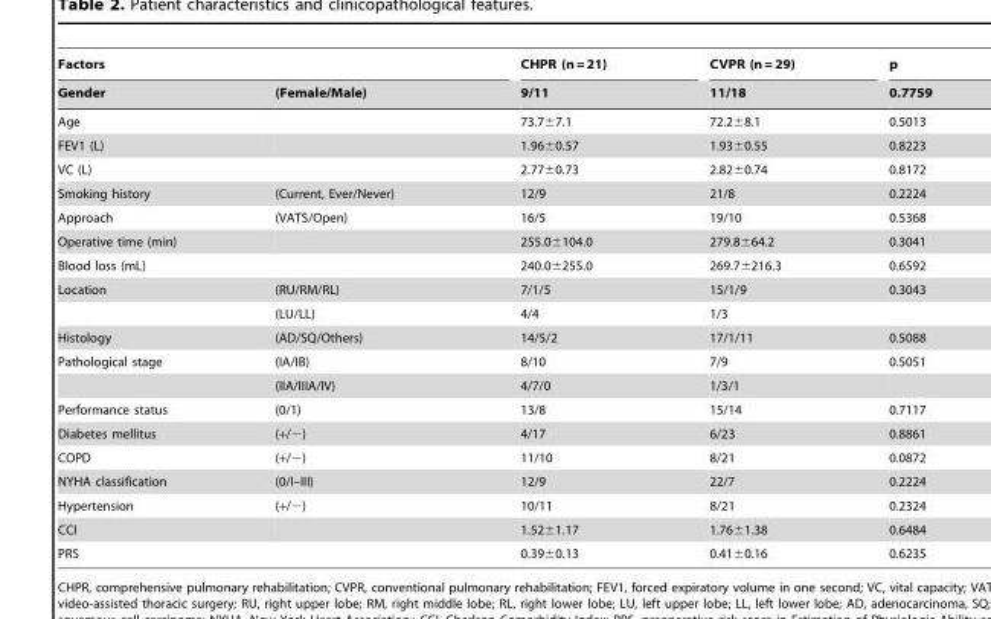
<table><thead><tr><td colspan="2">Factors</td><td rowspan="2">CHPR (n = 21) 9/11</td><td rowspan="2">CVPR (n = 29) 11/18</td><td rowspan="2">p 0.7759</td></tr><tr><td>Gender</td><td>(Female/Male)</td></tr></thead><tbody><tr><td>Age</td><td></td><td>73.7±7.1</td><td>72.2±8.1</td><td>0.5013</td></tr><tr><td>FEV1 (L)</td><td></td><td>1.96±0.57</td><td>1.93±0.55</td><td>0.8223</td></tr><tr><td>VC (L)</td><td></td><td>2.77±0.73</td><td>2.82±0.74</td><td>0.8172</td></tr><tr><td>Smoking history</td><td>(Current, Ever/Never)</td><td>12/9</td><td>21/8</td><td>0.2224</td></tr><tr><td>Approach</td><td>(VATS/Open)</td><td>16/5</td><td>19/10</td><td>0.5368</td></tr><tr><td>Operative time (min)</td><td></td><td>255.0±104.0</td><td>279.8±64.2</td><td>0.3041</td></tr><tr><td>Blood loss (mL)</td><td></td><td>240.0±255.0</td><td>269.7±216.3</td><td>0.6592</td></tr><tr><td rowspan="2">Location</td><td>(RU/RM/RL)</td><td>7/1/5</td><td>15/1/9</td><td>0.3043</td></tr><tr><td>(LU/LL)</td><td>4/4</td><td>1/3</td><td></td></tr><tr><td>Histology</td><td>(AD/SQ/Others)</td><td>14/5/2</td><td>17/1/11</td><td>0.5088</td></tr><tr><td rowspan="2">Pathological stage</td><td>(IA/IB)</td><td>8/10</td><td>7/9</td><td>0.5051</td></tr><tr><td>(IIA/IIIA/IV)</td><td>4/7/0</td><td>1/3/1</td><td></td></tr><tr><td>Performance status</td><td>(0/1)</td><td>13/8</td><td>15/14</td><td>0.7117</td></tr><tr><td>Diabetes mellitus</td><td>(+/−)</td><td>4/17</td><td>6/23</td><td>0.8861</td></tr><tr><td>COPD</td><td>(+/−)</td><td>11/10</td><td>8/21</td><td>0.0872</td></tr><tr><td>NYHA classification</td><td>(0/I–III)</td><td>12/9</td><td>22/7</td><td>0.2224</td></tr><tr><td>Hypertension</td><td>(+/−)</td><td>10/11</td><td>8/21</td><td>0.2324</td></tr><tr><td>CCI</td><td></td><td>1.52±1.17</td><td>1.76±1.38</td><td>0.6484</td></tr><tr><td>PRS</td><td></td><td>0.39±0.13</td><td>0.41±0.16</td><td>0.6235</td></tr></tbody></table>